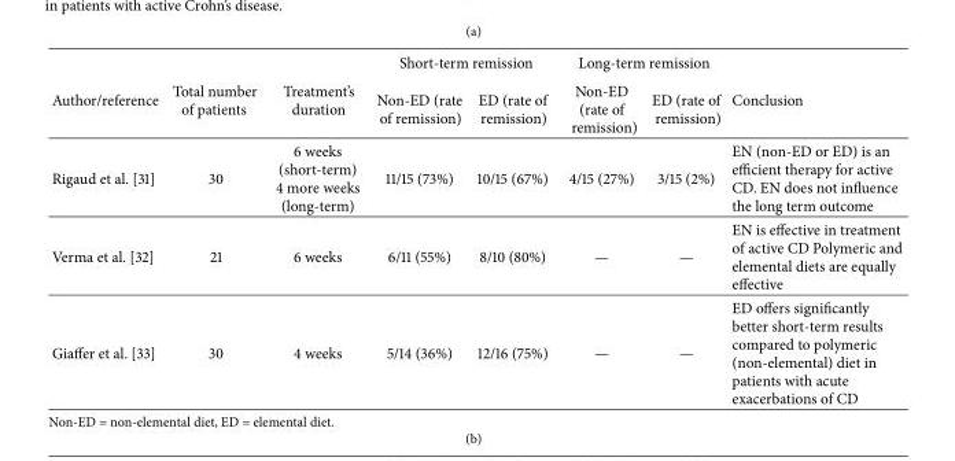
<table><thead><tr><td rowspan="2">Author/reference</td><td rowspan="2">Total number of patients</td><td rowspan="2">Treatment’s duration</td><td colspan="2">Short-term remission</td><td colspan="2">Long-term remission</td><td rowspan="2">Conclusion</td></tr><tr><td>Non-ED (rate of remission)</td><td>ED (rate of remission)</td><td>Non-ED (rate of remission)</td><td>ED (rate of remission)</td></tr></thead><tbody><tr><td>Rigaud et al. [31]</td><td>30</td><td>6 weeks (short-term) 4 more weeks (long-term)</td><td>11/15 (73%)</td><td>10/15 (67%)</td><td>4/15 (27%)</td><td>3/15 (2%)</td><td>EN (non-ED or ED) is an efficient therapy for active CD. EN does not influence the long term outcome</td></tr><tr><td>Verma et al. [32]</td><td>21</td><td>6 weeks</td><td>6/11 (55%)</td><td>8/10 (80%)</td><td>—</td><td>—</td><td>EN is effective in treatment of active CD Polymeric and elemental diets are equally effective</td></tr><tr><td>Giaffer et al. [33]</td><td>30</td><td>4 weeks</td><td>5/14 (36%)</td><td>12/16 (75%)</td><td>—</td><td>—</td><td>ED offers significantly better short-term results compared to polymeric (non-elemental) diet in patients with acute exacerbations of CD</td></tr></tbody></table>